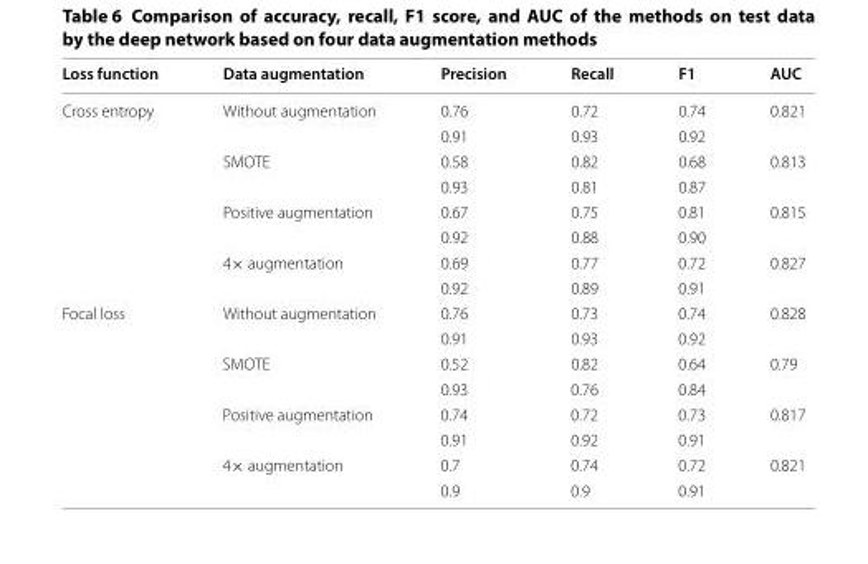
<table><thead><tr><td>Loss function</td><td>Data augmentation</td><td>Precision</td><td>Recall</td><td>F1</td><td>AUC</td></tr></thead><tbody><tr><td rowspan="8">Cross entropy</td><td rowspan="2">Without augmentation</td><td>0.76</td><td>0.72</td><td>0.74</td><td rowspan="2">0.821</td></tr><tr><td>0.91</td><td>0.93</td><td>0.92</td></tr><tr><td rowspan="2">SMOTE</td><td>0.58</td><td>0.82</td><td>0.68</td><td rowspan="2">0.813</td></tr><tr><td>0.93</td><td>0.81</td><td>0.87</td></tr><tr><td rowspan="2">Positive augmentation</td><td>0.67</td><td>0.75</td><td>0.81</td><td rowspan="2">0.815</td></tr><tr><td>0.92</td><td>0.88</td><td>0.90</td></tr><tr><td rowspan="2">4× augmentation</td><td>0.69</td><td>0.77</td><td>0.72</td><td rowspan="2">0.827</td></tr><tr><td>0.92</td><td>0.89</td><td>0.91</td></tr><tr><td rowspan="8">Focal loss</td><td rowspan="2">Without augmentation</td><td>0.76</td><td>0.73</td><td>0.74</td><td rowspan="2">0.828</td></tr><tr><td>0.91</td><td>0.93</td><td>0.92</td></tr><tr><td rowspan="2">SMOTE</td><td>0.52</td><td>0.82</td><td>0.64</td><td rowspan="2">0.79</td></tr><tr><td>0.93</td><td>0.76</td><td>0.84</td></tr><tr><td rowspan="2">Positive augmentation</td><td>0.74</td><td>0.72</td><td>0.73</td><td rowspan="2">0.817</td></tr><tr><td>0.91</td><td>0.92</td><td>0.91</td></tr><tr><td rowspan="2">4× augmentation</td><td>0.7</td><td>0.74</td><td>0.72</td><td rowspan="2">0.821</td></tr><tr><td>0.9</td><td>0.9</td><td>0.91</td></tr></tbody></table>